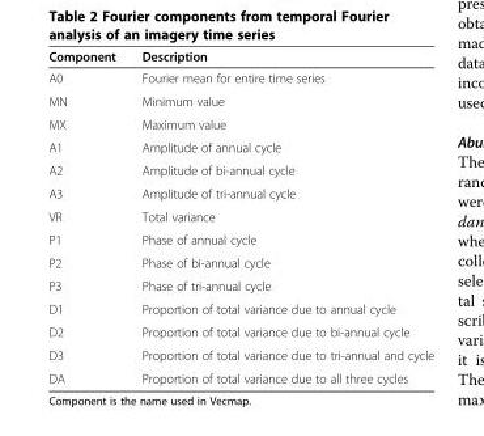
<table><thead><tr><td>Component</td><td>Description</td></tr></thead><tbody><tr><td>A0</td><td>Fourier mean for entire time series</td></tr><tr><td>MN</td><td>Minimum value</td></tr><tr><td>MX</td><td>Maximum value</td></tr><tr><td>A1</td><td>Amplitude of annual cycle</td></tr><tr><td>A2</td><td>Amplitude of bi-annual cycle</td></tr><tr><td>A3</td><td>Amplitude of tri-annual cycle</td></tr><tr><td>VR</td><td>Total variance</td></tr><tr><td>P1</td><td>Phase of annual cycle</td></tr><tr><td>P2</td><td>Phase of bi-annual cycle</td></tr><tr><td>P3</td><td>Phase of tri-annual cycle</td></tr><tr><td>D1</td><td>Proportion of total variance due to annual cycle</td></tr><tr><td>D2</td><td>Proportion of total variance due to bi-annual cycle</td></tr><tr><td>D3</td><td>Proportion of total variance due to tri-annual and cycle</td></tr><tr><td>DA</td><td>Proportion of total variance due to all three cycles</td></tr></tbody></table>